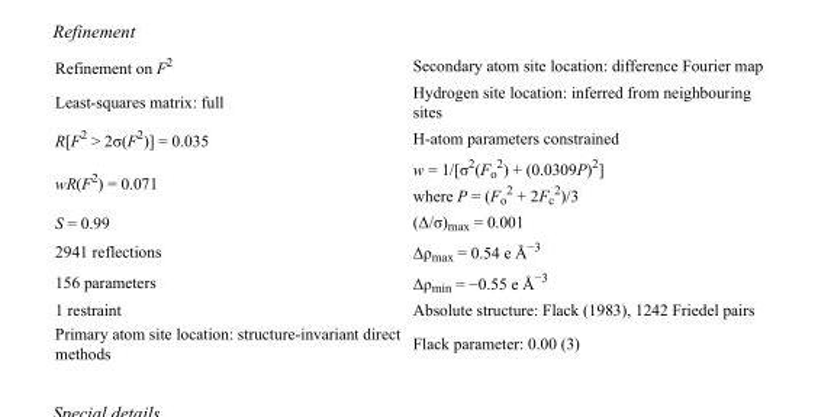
<table><tbody><tr><td>Refinement on F<sup>2</sup></td><td>Secondary atom site location: difference Fourier map</td></tr><tr><td>Least-squares matrix: full</td><td>Hydrogen site location: inferred from neighbouring sites</td></tr><tr><td>R[F<sup>2</sup> &gt; 2σ(F<sup>2</sup>)] = 0.035</td><td>H-atom parameters constrained</td></tr><tr><td>wR(F<sup>2</sup>) = 0.071</td><td>w = 1/[σ<sup>2</sup>(F<sub>o</sub> <sup>2</sup>) + (0.0309P)<sup>2</sup>] where P = (F<sub>o</sub> <sup>2</sup> + 2F<sub>c</sub> <sup>2</sup>)/3</td></tr><tr><td>S = 0.99</td><td>(Δ/σ)<sub>max</sub> = 0.001</td></tr><tr><td>2941 reflections</td><td>Δρ<sub>max</sub> = 0.54 e Å<sup>−3</sup></td></tr><tr><td>156 parameters</td><td>Δρ<sub>min</sub> = −0.55 e Å<sup>−3</sup></td></tr><tr><td>1 restraint</td><td>Absolute structure: Flack (1983), 1242 Friedel pairs</td></tr><tr><td>Primary atom site location: structure-invariant direct methods</td><td>Flack parameter: 0.00 (3)</td></tr></tbody></table>